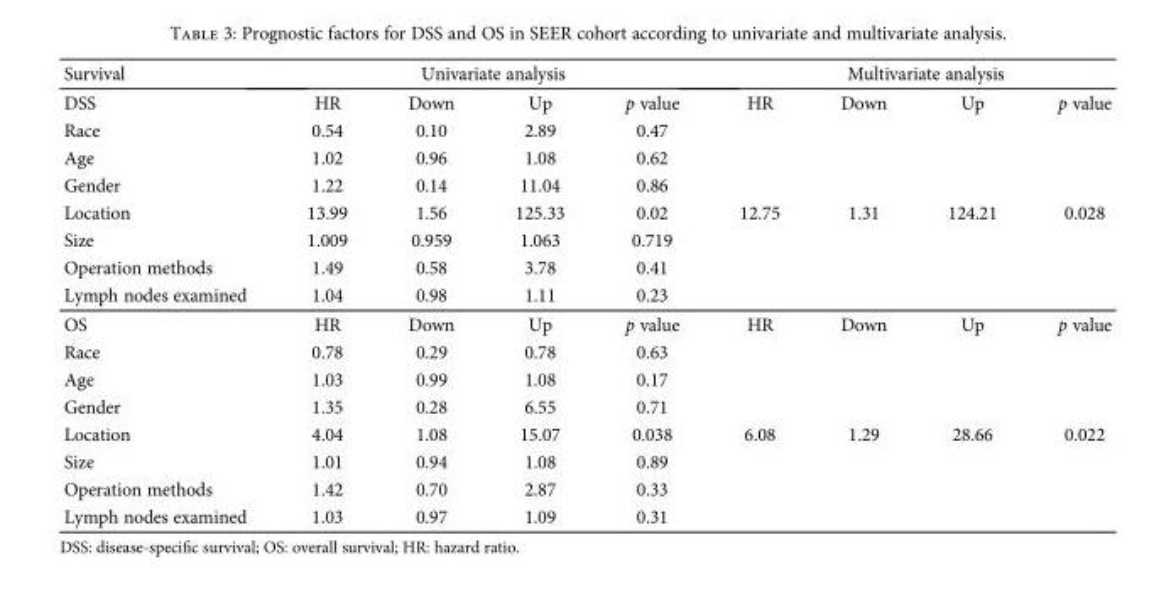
<table><thead><tr><td rowspan="2">Survival DSS</td><td colspan="4">Univariate analysis</td><td colspan="4">Multivariate analysis</td></tr><tr><td>HR</td><td>Down</td><td>Up</td><td>p value</td><td>HR</td><td>Down</td><td>Up</td><td>p value</td></tr></thead><tbody><tr><td>Race</td><td>0.54</td><td>0.10</td><td>2.89</td><td>0.47</td><td></td><td></td><td></td><td></td></tr><tr><td>Age</td><td>1.02</td><td>0.96</td><td>1.08</td><td>0.62</td><td></td><td></td><td></td><td></td></tr><tr><td>Gender</td><td>1.22</td><td>0.14</td><td>11.04</td><td>0.86</td><td></td><td></td><td></td><td></td></tr><tr><td>Location</td><td>13.99</td><td>1.56</td><td>125.33</td><td>0.02</td><td>12.75</td><td>1.31</td><td>124.21</td><td>0.028</td></tr><tr><td>Size</td><td>1.009</td><td>0.959</td><td>1.063</td><td>0.719</td><td></td><td></td><td></td><td></td></tr><tr><td>Operation methods</td><td>1.49</td><td>0.58</td><td>3.78</td><td>0.41</td><td></td><td></td><td></td><td></td></tr><tr><td>Lymph nodes examined</td><td>1.04</td><td>0.98</td><td>1.11</td><td>0.23</td><td></td><td></td><td></td><td></td></tr><tr><td>OS</td><td>HR</td><td>Down</td><td>Up</td><td>p value</td><td>HR</td><td>Down</td><td>Up</td><td>p value</td></tr><tr><td>Race</td><td>0.78</td><td>0.29</td><td>0.78</td><td>0.63</td><td></td><td></td><td></td><td></td></tr><tr><td>Age</td><td>1.03</td><td>0.99</td><td>1.08</td><td>0.17</td><td></td><td></td><td></td><td></td></tr><tr><td>Gender</td><td>1.35</td><td>0.28</td><td>6.55</td><td>0.71</td><td></td><td></td><td></td><td></td></tr><tr><td>Location</td><td>4.04</td><td>1.08</td><td>15.07</td><td>0.038</td><td>6.08</td><td>1.29</td><td>28.66</td><td>0.022</td></tr><tr><td>Size</td><td>1.01</td><td>0.94</td><td>1.08</td><td>0.89</td><td></td><td></td><td></td><td></td></tr><tr><td>Operation methods</td><td>1.42</td><td>0.70</td><td>2.87</td><td>0.33</td><td></td><td></td><td></td><td></td></tr><tr><td>Lymph nodes examined</td><td>1.03</td><td>0.97</td><td>1.09</td><td>0.31</td><td></td><td></td><td></td><td></td></tr></tbody></table>